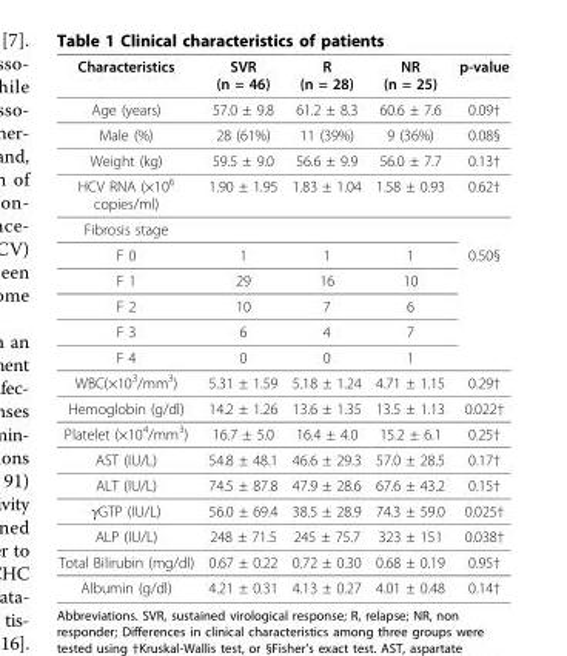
<table><thead><tr><td>Characteristics</td><td>SVR (n = 46)</td><td>R (n = 28)</td><td>NR (n = 25)</td><td>p-value</td></tr></thead><tbody><tr><td>Age (years)</td><td>57.0 ± 9.8</td><td>61.2 ± 8.3</td><td>60.6 ± 7.6</td><td>0.09†</td></tr><tr><td>Male (%)</td><td>28 (61%)</td><td>11 (39%)</td><td>9 (36%)</td><td>0.08§</td></tr><tr><td>Weight (kg)</td><td>59.5 ± 9.0</td><td>56.6 ± 9.9</td><td>56.0 ± 7.7</td><td>0.13†</td></tr><tr><td>HCV RNA (×10<sup>6</sup> copies/ml)</td><td>1.90 ± 1.95</td><td>1.83 ± 1.04</td><td>1.58 ± 0.93</td><td>0.62†</td></tr><tr><td colspan="5">Fibrosis stage</td></tr><tr><td>F 0</td><td>1</td><td>1</td><td>1</td><td>0.50§</td></tr><tr><td>F 1</td><td>29</td><td>16</td><td>10</td><td></td></tr><tr><td>F 2</td><td>10</td><td>7</td><td>6</td><td></td></tr><tr><td>F 3</td><td>6</td><td>4</td><td>7</td><td></td></tr><tr><td>F 4</td><td>0</td><td>0</td><td>1</td><td></td></tr><tr><td>WBC(×10<sup>3</sup>/mm<sup>3</sup>)</td><td>5.31 ± 1.59</td><td>5.18 ± 1.24</td><td>4.71 ± 1.15</td><td>0.29†</td></tr><tr><td>Hemoglobin (g/dl)</td><td>14.2 ± 1.26</td><td>13.6 ± 1.35</td><td>13.5 ± 1.13</td><td>0.022†</td></tr><tr><td>Platelet (×10<sup>4</sup>/mm<sup>3</sup>)</td><td>16.7 ± 5.0</td><td>16.4 ± 4.0</td><td>15.2 ± 6.1</td><td>0.25†</td></tr><tr><td>AST (IU/L)</td><td>54.8 ± 48.1</td><td>46.6 ± 29.3</td><td>57.0 ± 28.5</td><td>0.17†</td></tr><tr><td>ALT (IU/L)</td><td>74.5 ± 87.8</td><td>47.9 ± 28.6</td><td>67.6 ± 43.2</td><td>0.15†</td></tr><tr><td>γGTP (IU/L)</td><td>56.0 ± 69.4</td><td>38.5 ± 28.9</td><td>74.3 ± 59.0</td><td>0.025†</td></tr><tr><td>ALP (IU/L)</td><td>248 ± 71.5</td><td>245 ± 75.7</td><td>323 ± 151</td><td>0.038†</td></tr><tr><td>Total Bilirubin (mg/dl)</td><td>0.67 ± 0.22</td><td>0.72 ± 0.30</td><td>0.68 ± 0.19</td><td>0.95†</td></tr><tr><td>Albumin (g/dl)</td><td>4.21 ± 0.31</td><td>4.13 ± 0.27</td><td>4.01 ± 0.48</td><td>0.14†</td></tr></tbody></table>